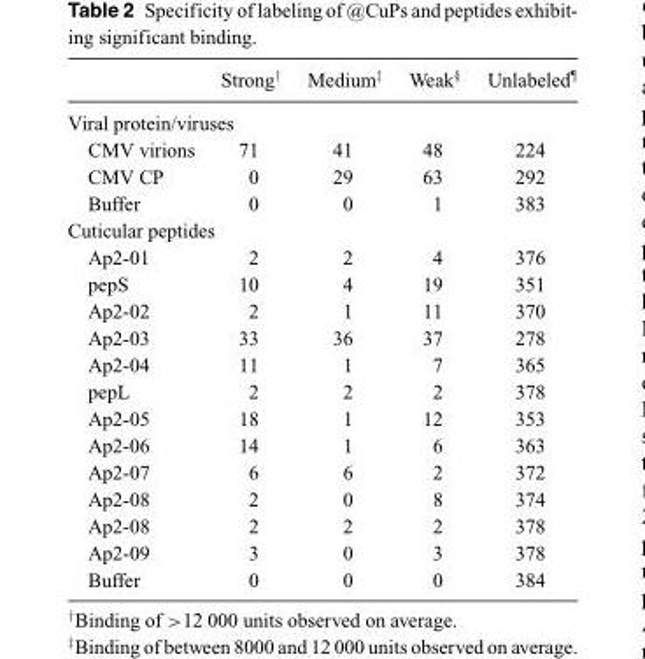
<table><thead><tr><td></td><td>Strong†</td><td>Medium‡</td><td>Weak§</td><td>Unlabeled¶</td></tr></thead><tbody><tr><td colspan="5">Viral protein/viruses</td></tr><tr><td>CMV virions</td><td>71</td><td>41</td><td>48</td><td>224</td></tr><tr><td>CMV CP</td><td>0</td><td>29</td><td>63</td><td>292</td></tr><tr><td>Buffer</td><td>0</td><td>0</td><td>1</td><td>383</td></tr><tr><td colspan="5">Cuticular peptides</td></tr><tr><td>Ap2-01</td><td>2</td><td>2</td><td>4</td><td>376</td></tr><tr><td>pepS</td><td>10</td><td>4</td><td>19</td><td>351</td></tr><tr><td>Ap2-02</td><td>2</td><td>1</td><td>11</td><td>370</td></tr><tr><td>Ap2-03</td><td>33</td><td>36</td><td>37</td><td>278</td></tr><tr><td>Ap2-04</td><td>11</td><td>1</td><td>7</td><td>365</td></tr><tr><td>pepL</td><td>2</td><td>2</td><td>2</td><td>378</td></tr><tr><td>Ap2-05</td><td>18</td><td>1</td><td>12</td><td>353</td></tr><tr><td>Ap2-06</td><td>14</td><td>1</td><td>6</td><td>363</td></tr><tr><td>Ap2-07</td><td>6</td><td>6</td><td>2</td><td>372</td></tr><tr><td>Ap2-08</td><td>2</td><td>0</td><td>8</td><td>374</td></tr><tr><td>Ap2-08</td><td>2</td><td>2</td><td>2</td><td>378</td></tr><tr><td>Ap2-09</td><td>3</td><td>0</td><td>3</td><td>378</td></tr><tr><td>Buffer</td><td>0</td><td>0</td><td>0</td><td>384</td></tr></tbody></table>